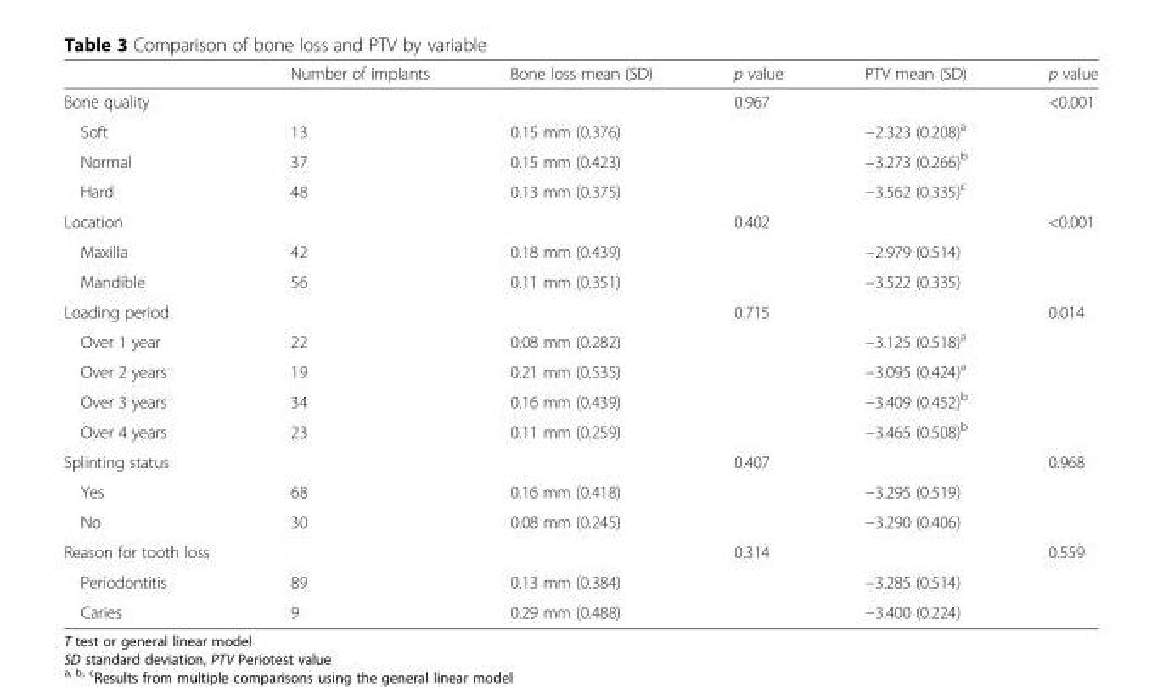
<table><thead><tr><td></td><td>Number of implants</td><td>Bone loss mean (SD)</td><td>p value</td><td>PTV mean (SD)</td><td>p value</td></tr></thead><tbody><tr><td>Bone quality</td><td></td><td></td><td>0.967</td><td></td><td>&lt;0.001</td></tr><tr><td>Soft</td><td>13</td><td>0.15 mm (0.376)</td><td></td><td>−2.323 (0.208)<sup>a</sup></td><td></td></tr><tr><td>Normal</td><td>37</td><td>0.15 mm (0.423)</td><td></td><td>−3.273 (0.266)<sup>b</sup></td><td></td></tr><tr><td>Hard</td><td>48</td><td>0.13 mm (0.375)</td><td></td><td>−3.562 (0.335)<sup>c</sup></td><td></td></tr><tr><td>Location</td><td></td><td></td><td>0.402</td><td></td><td>&lt;0.001</td></tr><tr><td>Maxilla</td><td>42</td><td>0.18 mm (0.439)</td><td></td><td>−2.979 (0.514)</td><td></td></tr><tr><td>Mandible</td><td>56</td><td>0.11 mm (0.351)</td><td></td><td>−3.522 (0.335)</td><td></td></tr><tr><td>Loading period</td><td></td><td></td><td>0.715</td><td></td><td>0.014</td></tr><tr><td>Over 1 year</td><td>22</td><td>0.08 mm (0.282)</td><td></td><td>−3.125 (0.518)<sup>a</sup></td><td></td></tr><tr><td>Over 2 years</td><td>19</td><td>0.21 mm (0.535)</td><td></td><td>−3.095 (0.424)<sup>a</sup></td><td></td></tr><tr><td>Over 3 years</td><td>34</td><td>0.16 mm (0.439)</td><td></td><td>−3.409 (0.452)<sup>b</sup></td><td></td></tr><tr><td>Over 4 years</td><td>23</td><td>0.11 mm (0.259)</td><td></td><td>−3.465 (0.508)<sup>b</sup></td><td></td></tr><tr><td>Splinting status</td><td></td><td></td><td>0.407</td><td></td><td>0.968</td></tr><tr><td>Yes</td><td>68</td><td>0.16 mm (0.418)</td><td></td><td>−3.295 (0.519)</td><td></td></tr><tr><td>No</td><td>30</td><td>0.08 mm (0.245)</td><td></td><td>−3.290 (0.406)</td><td></td></tr><tr><td>Reason for tooth loss</td><td></td><td></td><td>0.314</td><td></td><td>0.559</td></tr><tr><td>Periodontitis</td><td>89</td><td>0.13 mm (0.384)</td><td></td><td>−3.285 (0.514)</td><td></td></tr><tr><td>Caries</td><td>9</td><td>0.29 mm (0.488)</td><td></td><td>−3.400 (0.224)</td><td></td></tr></tbody></table>